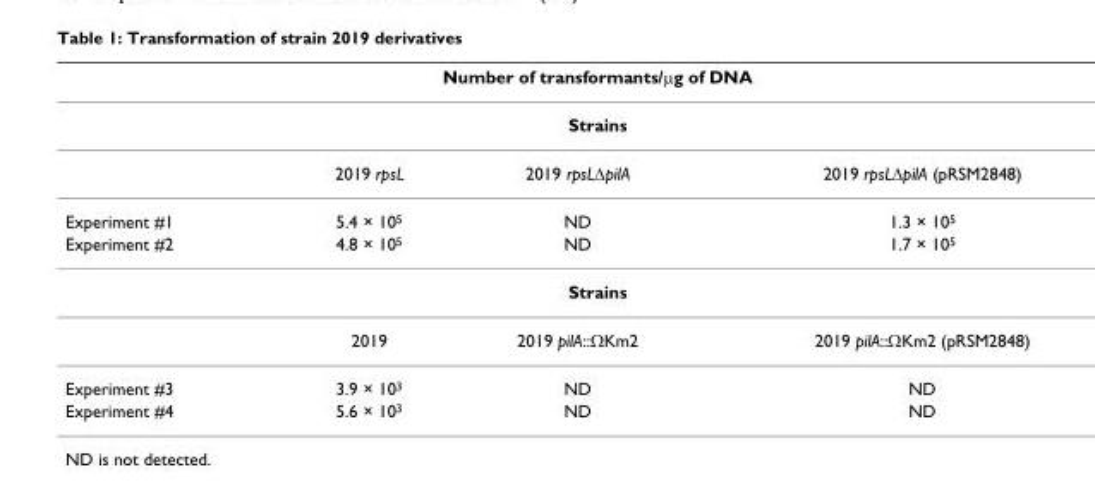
<table><thead><tr><td rowspan="2" colspan="4">Number of transformants/μg of DNA Strains</td></tr><tr></tr><tr><td></td><td>2019 rpsL</td><td>2019 rpsLΔpilA</td><td>2019 rpsLΔpilA (pRSM2848)</td></tr></thead><tbody><tr><td>Experiment #1</td><td>5.4 × 10<sup>5</sup></td><td>ND</td><td>1.3 × 10<sup>5</sup></td></tr><tr><td>Experiment #2</td><td>4.8 × 10<sup>5</sup></td><td>ND</td><td>1.7 × 10<sup>5</sup></td></tr><tr><td colspan="4">Strains</td></tr><tr><td></td><td>2019</td><td>2019 pilA::ΩKm2</td><td>2019 pilA::ΩKm2 (pRSM2848)</td></tr><tr><td>Experiment #3</td><td>3.9 × 10<sup>3</sup></td><td>ND</td><td>ND</td></tr><tr><td>Experiment #4</td><td>5.6 × 10<sup>3</sup></td><td>ND</td><td>ND</td></tr></tbody></table>